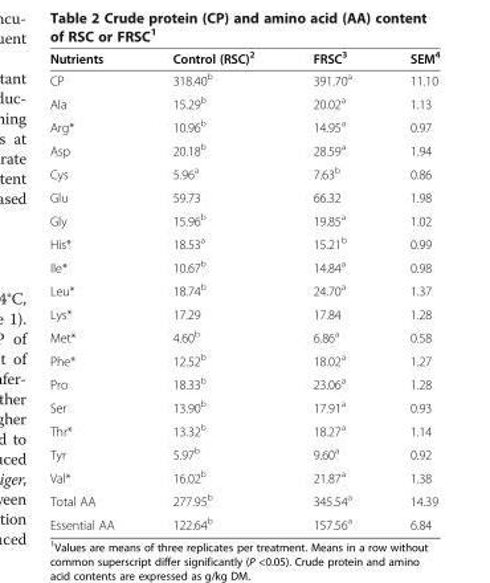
<table><thead><tr><td>Nutrients</td><td>Control (RSC)<sup>2</sup></td><td>FRSC<sup>3</sup></td><td>SEM<sup>4</sup></td></tr></thead><tbody><tr><td>CP</td><td>318.40<sup>b</sup></td><td>391.70<sup>a</sup></td><td>11.10</td></tr><tr><td>Ala</td><td>15.29<sup>b</sup></td><td>20.02<sup>a</sup></td><td>1.13</td></tr><tr><td>Arg*</td><td>10.96<sup>b</sup></td><td>14.95<sup>a</sup></td><td>0.97</td></tr><tr><td>Asp</td><td>20.18<sup>b</sup></td><td>28.59<sup>a</sup></td><td>1.94</td></tr><tr><td>Cys</td><td>5.96<sup>a</sup></td><td>7.63<sup>b</sup></td><td>0.86</td></tr><tr><td>Glu</td><td>59.73</td><td>66.32</td><td>1.98</td></tr><tr><td>Gly</td><td>15.96<sup>b</sup></td><td>19.85<sup>a</sup></td><td>1.02</td></tr><tr><td>His*</td><td>18.53<sup>a</sup></td><td>15.21<sup>b</sup></td><td>0.99</td></tr><tr><td>Ile*</td><td>10.67<sup>b</sup></td><td>14.84<sup>a</sup></td><td>0.98</td></tr><tr><td>Leu*</td><td>18.74<sup>b</sup></td><td>24.70<sup>a</sup></td><td>1.37</td></tr><tr><td>Lys*</td><td>17.29</td><td>17.84</td><td>1.28</td></tr><tr><td>Met*</td><td>4.60<sup>b</sup></td><td>6.86<sup>a</sup></td><td>0.58</td></tr><tr><td>Phe*</td><td>12.52<sup>b</sup></td><td>18.02<sup>a</sup></td><td>1.27</td></tr><tr><td>Pro</td><td>18.33<sup>b</sup></td><td>23.06<sup>a</sup></td><td>1.28</td></tr><tr><td>Ser</td><td>13.90<sup>b</sup></td><td>17.91<sup>a</sup></td><td>0.93</td></tr><tr><td>Thr*</td><td>13.32<sup>b</sup></td><td>18.27<sup>a</sup></td><td>1.14</td></tr><tr><td>Tyr</td><td>5.97<sup>b</sup></td><td>9.60<sup>a</sup></td><td>0.92</td></tr><tr><td>Val*</td><td>16.02<sup>b</sup></td><td>21.87<sup>a</sup></td><td>1.38</td></tr><tr><td>Total AA</td><td>277.95<sup>b</sup></td><td>345.54<sup>a</sup></td><td>14.39</td></tr><tr><td>Essential AA</td><td>122.64<sup>b</sup></td><td>157.56<sup>a</sup></td><td>6.84</td></tr></tbody></table>